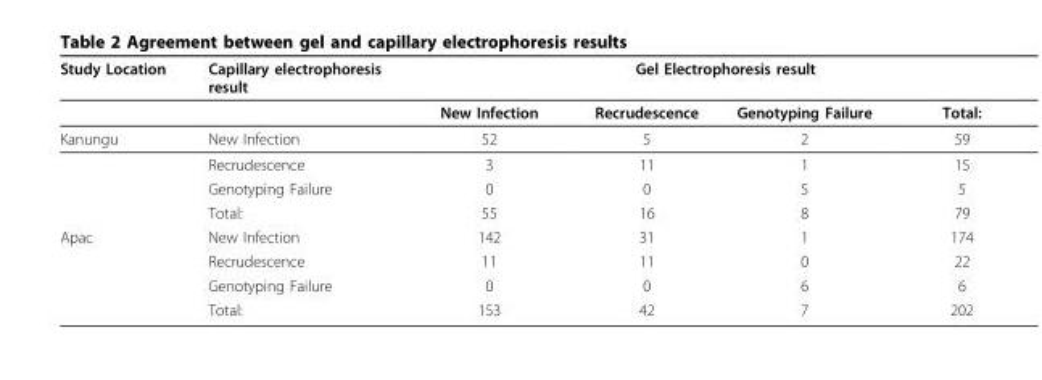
<table><thead><tr><td rowspan="2">Study Location</td><td rowspan="2">Capillary electrophoresis result</td><td colspan="4">Gel Electrophoresis result</td></tr><tr><td>New Infection</td><td>Recrudescence</td><td>Genotyping Failure</td><td>Total:</td></tr></thead><tbody><tr><td rowspan="4">Kanungu</td><td>New Infection</td><td>52</td><td>5</td><td>2</td><td>59</td></tr><tr><td>Recrudescence</td><td>3</td><td>11</td><td>1</td><td>15</td></tr><tr><td>Genotyping Failure</td><td>0</td><td>0</td><td>5</td><td>5</td></tr><tr><td>Total:</td><td>55</td><td>16</td><td>8</td><td>79</td></tr><tr><td rowspan="4">Apac</td><td>New Infection</td><td>142</td><td>31</td><td>1</td><td>174</td></tr><tr><td>Recrudescence</td><td>11</td><td>11</td><td>0</td><td>22</td></tr><tr><td>Genotyping Failure</td><td>0</td><td>0</td><td>6</td><td>6</td></tr><tr><td>Total:</td><td>153</td><td>42</td><td>7</td><td>202</td></tr></tbody></table>